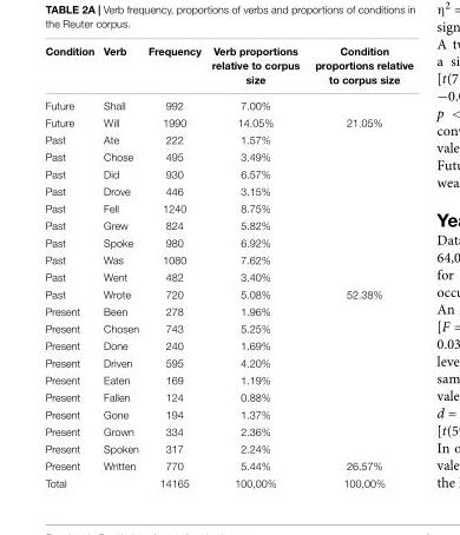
<table><thead><tr><td>Condition</td><td>Verb</td><td>Frequency</td><td>Verb proportions relative to corpus size</td><td>Condition proportions relative to corpus size</td></tr></thead><tbody><tr><td>Future</td><td>Shall</td><td>992</td><td>7.00%</td><td></td></tr><tr><td>Future</td><td>Will</td><td>1990</td><td>14.05%</td><td>21.05%</td></tr><tr><td>Past</td><td>Ate</td><td>222</td><td>1.57%</td><td></td></tr><tr><td>Past</td><td>Chose</td><td>495</td><td>3.49%</td><td></td></tr><tr><td>Past</td><td>Did</td><td>930</td><td>6.57%</td><td></td></tr><tr><td>Past</td><td>Drove</td><td>446</td><td>3.15%</td><td></td></tr><tr><td>Past</td><td>Fell</td><td>1240</td><td>8.75%</td><td></td></tr><tr><td>Past</td><td>Grew</td><td>824</td><td>5.82%</td><td></td></tr><tr><td>Past</td><td>Spoke</td><td>980</td><td>6.92%</td><td></td></tr><tr><td>Past</td><td>Was</td><td>1080</td><td>7.62%</td><td></td></tr><tr><td>Past</td><td>Went</td><td>482</td><td>3.40%</td><td></td></tr><tr><td>Past</td><td>Wrote</td><td>720</td><td>5.08%</td><td>52.38%</td></tr><tr><td>Present</td><td>Been</td><td>278</td><td>1.96%</td><td></td></tr><tr><td>Present</td><td>Chosen</td><td>743</td><td>5.25%</td><td></td></tr><tr><td>Present</td><td>Done</td><td>240</td><td>1.69%</td><td></td></tr><tr><td>Present</td><td>Driven</td><td>595</td><td>4.20%</td><td></td></tr><tr><td>Present</td><td>Eaten</td><td>169</td><td>1.19%</td><td></td></tr><tr><td>Present</td><td>Fallen</td><td>124</td><td>0.88%</td><td></td></tr><tr><td>Present</td><td>Gone</td><td>194</td><td>1.37%</td><td></td></tr><tr><td>Present</td><td>Grown</td><td>334</td><td>2.36%</td><td></td></tr><tr><td>Present</td><td>Spoken</td><td>317</td><td>2.24%</td><td></td></tr><tr><td>Present</td><td>Written</td><td>770</td><td>5.44%</td><td>26.57%</td></tr><tr><td>Total</td><td></td><td>14165</td><td>100,00%</td><td>100,00%</td></tr></tbody></table>